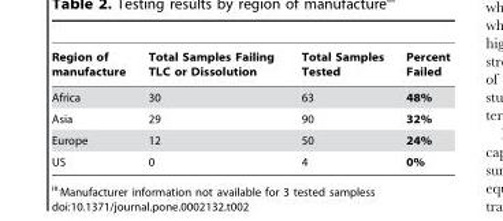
<table><thead><tr><td>Region of manufacture</td><td>Total Samples Failing TLC or Dissolution</td><td>Total Samples Tested</td><td>Percent Failed</td></tr></thead><tbody><tr><td>Africa</td><td>30</td><td>63</td><td>48%</td></tr><tr><td>Asia</td><td>29</td><td>90</td><td>32%</td></tr><tr><td>Europe</td><td>12</td><td>50</td><td>24%</td></tr><tr><td>US</td><td>0</td><td>4</td><td>0%</td></tr></tbody></table>